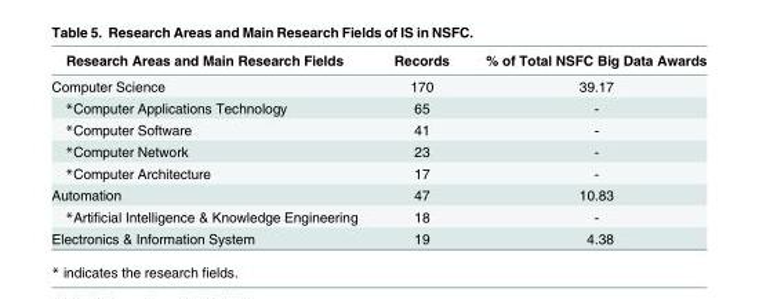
<table><thead><tr><td>Research Areas and Main Research Fields</td><td>Records</td><td>% of Total NSFC Big Data Awards</td></tr></thead><tbody><tr><td>Computer Science</td><td>170</td><td>39.17</td></tr><tr><td>*Computer Applications Technology</td><td>65</td><td>-</td></tr><tr><td>*Computer Software</td><td>41</td><td>-</td></tr><tr><td>*Computer Network</td><td>23</td><td>-</td></tr><tr><td>*Computer Architecture</td><td>17</td><td>-</td></tr><tr><td>Automation</td><td>47</td><td>10.83</td></tr><tr><td>*Artificial Intelligence &amp; Knowledge Engineering</td><td>18</td><td>-</td></tr><tr><td>Electronics &amp; Information System</td><td>19</td><td>4.38</td></tr></tbody></table>